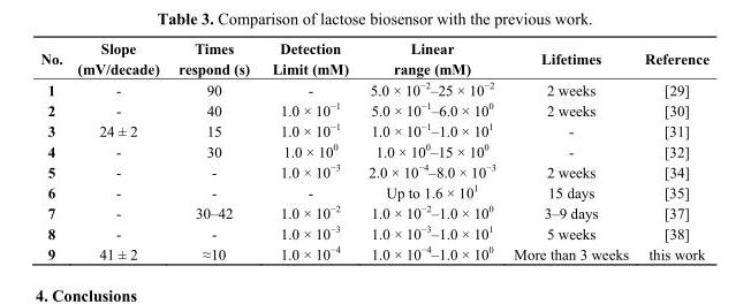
<table><thead><tr><td>No.</td><td>Slope (mV/decade)</td><td>Times respond (s)</td><td>Detection Limit (mM)</td><td>Linear range (mM)</td><td>Lifetimes</td><td>Reference</td></tr></thead><tbody><tr><td>1</td><td>-</td><td>90</td><td>-</td><td>5.0 × 10<sup>−2</sup>–25 × 10<sup>−2</sup></td><td>2 weeks</td><td>[29]</td></tr><tr><td>2</td><td>-</td><td>40</td><td>1.0 × 10<sup>−1</sup></td><td>5.0 × 10<sup>−1</sup>–6.0 × 10<sup>0</sup></td><td>2 weeks</td><td>[30]</td></tr><tr><td>3</td><td>24 ± 2</td><td>15</td><td>1.0 × 10<sup>−1</sup></td><td>1.0 × 10<sup>−1</sup>–1.0 × 10<sup>1</sup></td><td>-</td><td>[31]</td></tr><tr><td>4</td><td>-</td><td>30</td><td>1.0 × 10<sup>0</sup></td><td>1.0 × 10<sup>0</sup>–15 × 10<sup>0</sup></td><td>-</td><td>[32]</td></tr><tr><td>5</td><td>-</td><td>-</td><td>1.0 × 10<sup>−3</sup></td><td>2.0 × 10<sup>−4</sup>–8.0 × 10<sup>−3</sup></td><td>2 weeks</td><td>[34]</td></tr><tr><td>6</td><td>-</td><td>-</td><td>-</td><td>Up to 1.6 × 10<sup>1</sup></td><td>15 days</td><td>[35]</td></tr><tr><td>7</td><td>-</td><td>30–42</td><td>1.0 × 10<sup>−2</sup></td><td>1.0 × 10<sup>−2</sup>–1.0 × 10<sup>0</sup></td><td>3–9 days</td><td>[37]</td></tr><tr><td>8</td><td>-</td><td>-</td><td>1.0 × 10<sup>−3</sup></td><td>1.0 × 10<sup>−3</sup>–1.0 × 10<sup>1</sup></td><td>5 weeks</td><td>[38]</td></tr><tr><td>9</td><td>41 ± 2</td><td>≈10</td><td>1.0 × 10<sup>−4</sup></td><td>1.0 × 10<sup>−4</sup>–1.0 × 10<sup>0</sup></td><td>More than 3 weeks</td><td>this work</td></tr></tbody></table>